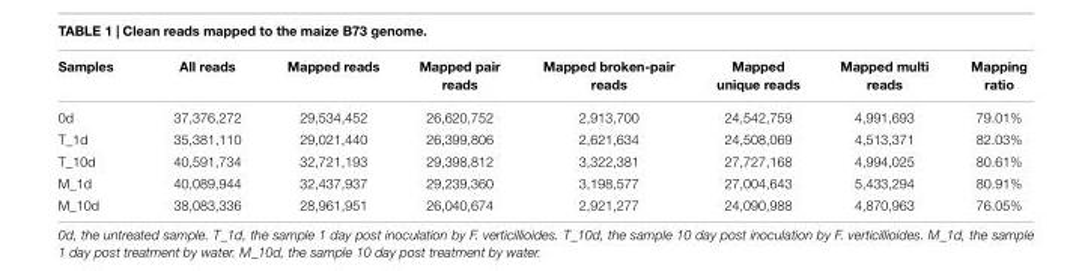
<table><thead><tr><td>Samples</td><td>All reads</td><td>Mapped reads</td><td>Mapped pair reads</td><td>Mapped broken-pair reads</td><td>Mapped unique reads</td><td>Mapped multi reads</td><td>Mapping ratio</td></tr></thead><tbody><tr><td>0d</td><td>37,376,272</td><td>29,534,452</td><td>26,620,752</td><td>2,913,700</td><td>24,542,759</td><td>4,991,693</td><td>79.01%</td></tr><tr><td>T_1d</td><td>35,381,110</td><td>29,021,440</td><td>26,399,806</td><td>2,621,634</td><td>24,508,069</td><td>4,513,371</td><td>82.03%</td></tr><tr><td>T_10d</td><td>40,591,734</td><td>32,721,193</td><td>29,398,812</td><td>3,322,381</td><td>27,727,168</td><td>4,994,025</td><td>80.61%</td></tr><tr><td>M_1d</td><td>40,089,944</td><td>32,437,937</td><td>29,239,360</td><td>3,198,577</td><td>27,004,643</td><td>5,433,294</td><td>80.91%</td></tr><tr><td>M_10d</td><td>38,083,336</td><td>28,961,951</td><td>26,040,674</td><td>2,921,277</td><td>24,090,988</td><td>4,870,963</td><td>76.05%</td></tr></tbody></table>